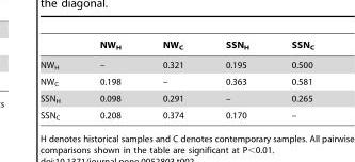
<table><thead><tr><td></td><td>NW<sub>H</sub></td><td>NW<sub>C</sub></td><td>SSN<sub>H</sub></td><td>SSN<sub>C</sub></td></tr></thead><tbody><tr><td>NW<sub>H</sub></td><td>–</td><td>0.321</td><td>0.195</td><td>0.500</td></tr><tr><td>NW<sub>C</sub></td><td>0.198</td><td>–</td><td>0.363</td><td>0.581</td></tr><tr><td>SSN<sub>H</sub></td><td>0.098</td><td>0.291</td><td>–</td><td>0.265</td></tr><tr><td>SSN<sub>C</sub></td><td>0.208</td><td>0.374</td><td>0.170</td><td>–</td></tr></tbody></table>